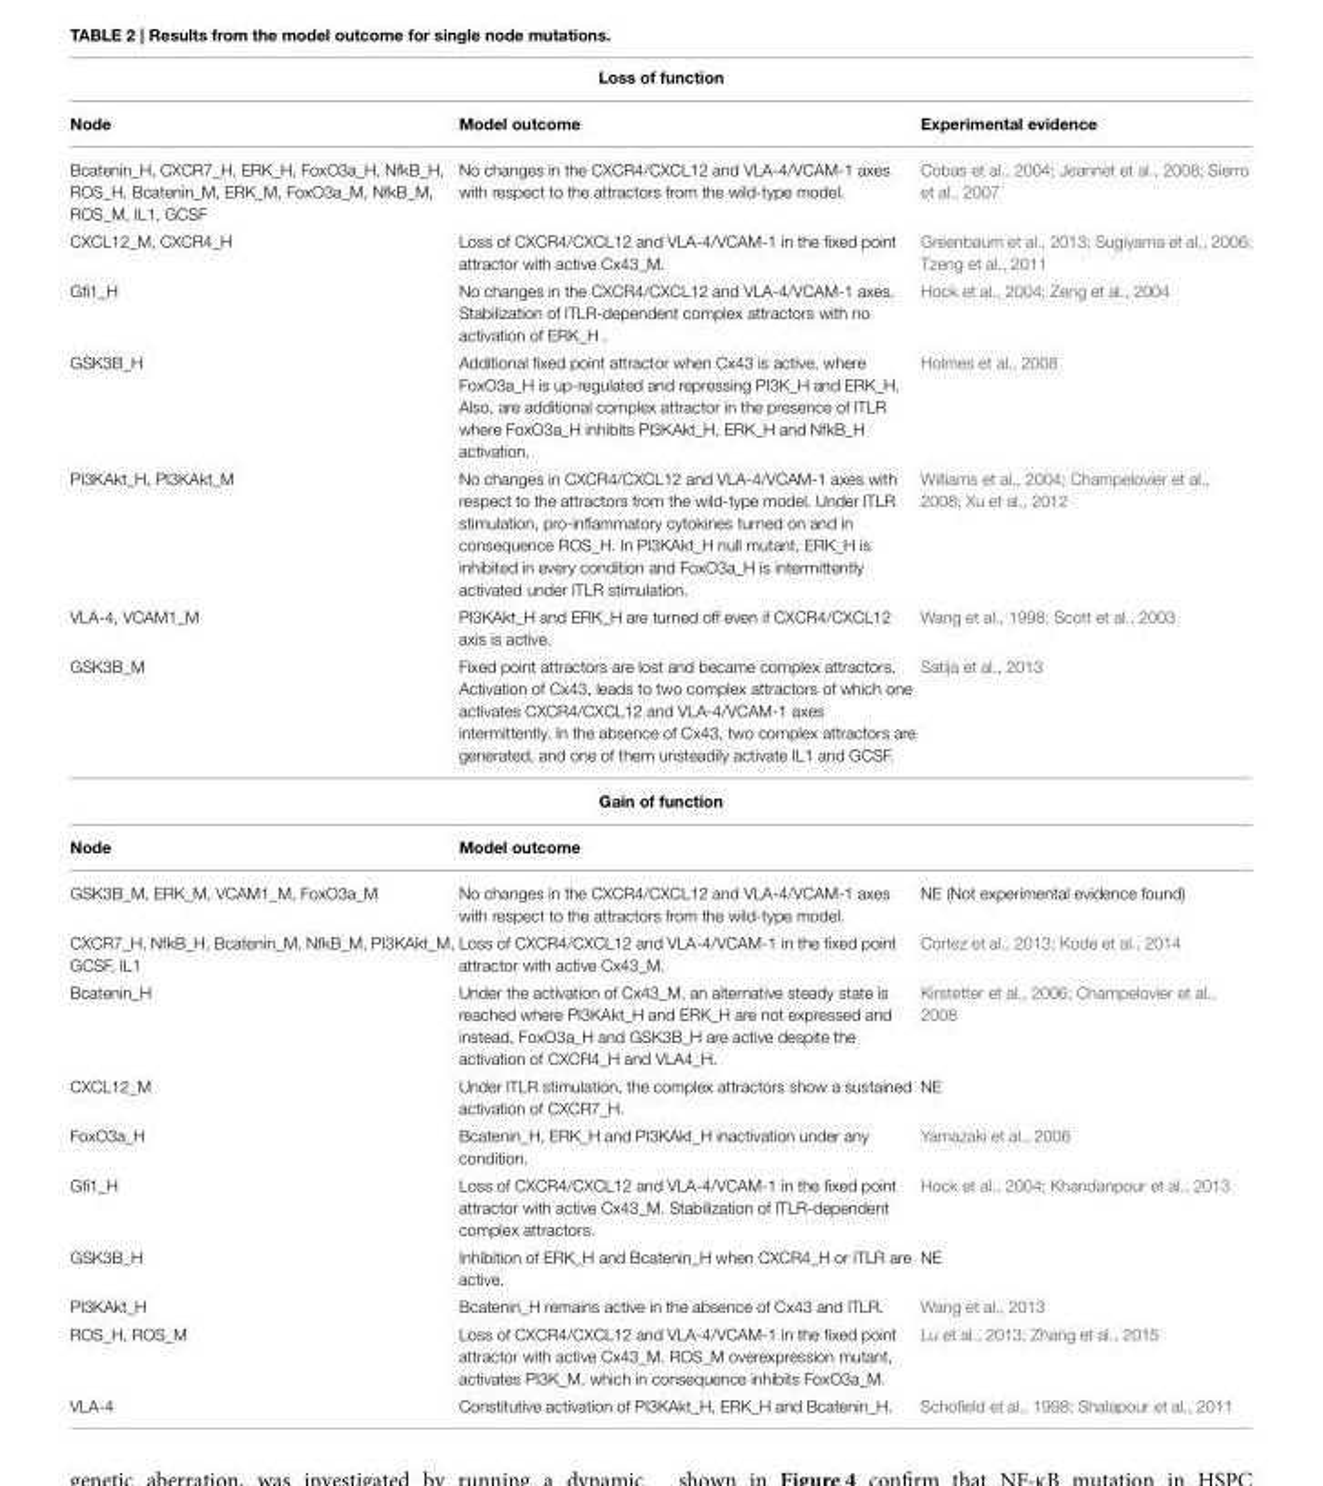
<table><thead><tr><td colspan="3">Loss of function</td></tr><tr><td>Node</td><td>Model outcome</td><td>Experimental evidence</td></tr></thead><tbody><tr><td>Bcatenin_H, CXCR7_H, ERK_H, FoxO3a_H, NfkB_H, ROS_H, Bcatenin_M, ERK_M, FoxO3a_M, NfkB_M, ROS_M, IL1, GCSF</td><td>No changes in the CXCR4/CXCL12 and VLA-4/VCAM-1 axes with respect to the attractors from the wild-type model.</td><td>Cobas et al., 2004; Jeannet et al., 2008; Sierro et al., 2007</td></tr><tr><td>CXCL12_M, CXCR4_H</td><td>Loss of CXCR4/CXCL12 and VLA-4/VCAM-1 in the fixed point attractor with active Cx43_M.</td><td>Greenbaum et al., 2013; Sugiyama et al., 2006; Tzeng et al., 2011</td></tr><tr><td>Gfi1_H</td><td>No changes in the CXCR4/CXCL12 and VLA-4/VCAM-1 axes. Stabilization of lTLR-dependent complex attractors with no activation of ERK_H .</td><td>Hock et al., 2004; Zeng et al., 2004</td></tr><tr><td>GSK3B_H</td><td>Additional fixed point attractor when Cx43 is active, where FoxO3a_H is up-regulated and repressing PI3K_H and ERK_H. Also, are additional complex attractor in the presence of lTLR where FoxO3a_H inhibits PI3KAkt_H, ERK_H and NfkB_H activation.</td><td>Holmes et al., 2008</td></tr><tr><td>PI3KAkt_H, PI3KAkt_M</td><td>No changes in CXCR4/CXCL12 and VLA-4/VCAM-1 axes with respect to the attractors from the wild-type model. Under lTLR stimulation, pro-inflammatory cytokines turned on and in consequence ROS_H. In PI3KAkt_H null mutant, ERK_H is inhibited in every condition and FoxO3a_H is intermittently activated under lTLR stimulation.</td><td>Williams et al., 2004; Champelovier et al., 2008; Xu et al., 2012</td></tr><tr><td>VLA-4, VCAM1_M</td><td>PI3KAkt_H and ERK_H are turned off even if CXCR4/CXCL12 axis is active.</td><td>Wang et al., 1998; Scott et al., 2003</td></tr><tr><td>GSK3B_M</td><td>Fixed point attractors are lost and became complex attractors. Activation of Cx43, leads to two complex attractors of which one activates CXCR4/CXCL12 and VLA-4/VCAM-1 axes intermittently. In the absence of Cx43, two complex attractors are generated, and one of them unsteadily activate IL1 and GCSF.</td><td>Satija et al., 2013</td></tr><tr><td colspan="3">Gain of function</td></tr><tr><td>Node</td><td>Model outcome</td><td></td></tr><tr><td>GSK3B_M, ERK_M, VCAM1_M, FoxO3a_M</td><td>No changes in the CXCR4/CXCL12 and VLA-4/VCAM-1 axes with respect to the attractors from the wild-type model.</td><td>NE (Not experimental evidence found)</td></tr><tr><td>CXCR7_H, NfkB_H, Bcatenin_M, NfkB_M, PI3KAkt_M, GCSF, IL1</td><td>Loss of CXCR4/CXCL12 and VLA-4/VCAM-1 in the fixed point attractor with active Cx43_M.</td><td>Cortez et al., 2013; Kode et al., 2014</td></tr><tr><td>Bcatenin_H</td><td>Under the activation of Cx43_M, an alternative steady state is reached where PI3KAkt_H and ERK_H are not expressed and instead, FoxO3a_H and GSK3B_H are active despite the activation of CXCR4_H and VLA4_H.</td><td>Kirstetter et al., 2006; Champelovier et al., 2008</td></tr><tr><td>CXCL12_M</td><td>Under lTLR stimulation, the complex attractors show a sustained activation of CXCR7_H.</td><td>NE</td></tr><tr><td>FoxO3a_H</td><td>Bcatenin_H, ERK_H and PI3KAkt_H inactivation under any condition.</td><td>Yamazaki et al., 2006</td></tr><tr><td>Gfi1_H</td><td>Loss of CXCR4/CXCL12 and VLA-4/VCAM-1 in the fixed point attractor with active Cx43_M. Stabilization of lTLR-dependent complex attractors.</td><td>Hock et al., 2004; Khandanpour et al., 2013</td></tr><tr><td>GSK3B_H</td><td>Inhibition of ERK_H and Bcatenin_H when CXCR4_H or lTLR are active.</td><td>NE</td></tr><tr><td>PI3KAkt_H</td><td>Bcatenin_H remains active in the absence of Cx43 and lTLR.</td><td>Wang et al., 2013</td></tr><tr><td>ROS_H, ROS_M</td><td>Loss of CXCR4/CXCL12 and VLA-4/VCAM-1 in the fixed point attractor with active Cx43_M. ROS_M overexpression mutant, activates PI3K_M, which in consequence inhibits FoxO3a_M.</td><td>Lu et al., 2013; Zhang et al., 2015</td></tr><tr><td>VLA-4</td><td>Constitutive activation of PI3KAkt_H, ERK_H and Bcatenin_H.</td><td>Schofield et al., 1998; Shalapour et al., 2011</td></tr></tbody></table>